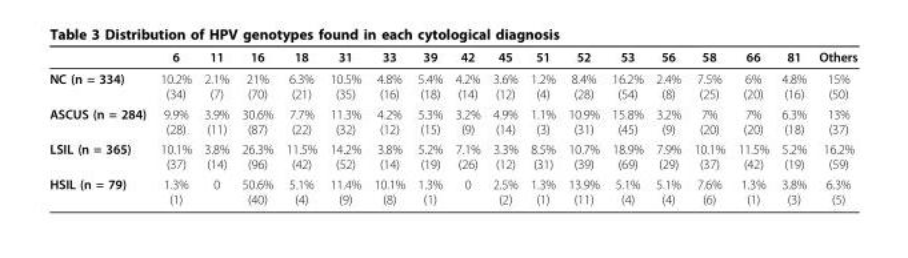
<table><thead><tr><td></td><td>6</td><td>11</td><td>16</td><td>18</td><td>31</td><td>33</td><td>39</td><td>42</td><td>45</td><td>51</td><td>52</td><td>53</td><td>56</td><td>58</td><td>66</td><td>81</td><td>Others</td></tr></thead><tbody><tr><td>NC (n = 334)</td><td>10.2% (34)</td><td>2.1% (7)</td><td>21% (70)</td><td>6.3% (21)</td><td>10.5% (35)</td><td>4.8% (16)</td><td>5.4% (18)</td><td>4.2% (14)</td><td>3.6% (12)</td><td>1.2% (4)</td><td>8.4% (28)</td><td>16.2% (54)</td><td>2.4% (8)</td><td>7.5% (25)</td><td>6% (20)</td><td>4.8% (16)</td><td>15% (50)</td></tr><tr><td>ASCUS (n = 284)</td><td>9.9% (28)</td><td>3.9% (11)</td><td>30.6% (87)</td><td>7.7% (22)</td><td>11.3% (32)</td><td>4.2% (12)</td><td>5.3% (15)</td><td>3.2% (9)</td><td>4.9% (14)</td><td>1.1% (3)</td><td>10.9% (31)</td><td>15.8% (45)</td><td>3.2% (9)</td><td>7% (20)</td><td>7% (20)</td><td>6.3% (18)</td><td>13% (37)</td></tr><tr><td>LSIL (n = 365)</td><td>10.1% (37)</td><td>3.8% (14)</td><td>26.3% (96)</td><td>11.5% (42)</td><td>14.2% (52)</td><td>3.8% (14)</td><td>5.2% (19)</td><td>7.1% (26)</td><td>3.3% (12)</td><td>8.5% (31)</td><td>10.7% (39)</td><td>18.9% (69)</td><td>7.9% (29)</td><td>10.1% (37)</td><td>11.5% (42)</td><td>5.2% (19)</td><td>16.2% (59)</td></tr><tr><td>HSIL (n = 79)</td><td>1.3% (1)</td><td>0</td><td>50.6% (40)</td><td>5.1% (4)</td><td>11.4% (9)</td><td>10.1% (8)</td><td>1.3% (1)</td><td>0</td><td>2.5% (2)</td><td>1.3% (1)</td><td>13.9% (11)</td><td>5.1% (4)</td><td>5.1% (4)</td><td>7.6% (6)</td><td>1.3% (1)</td><td>3.8% (3)</td><td>6.3% (5)</td></tr></tbody></table>